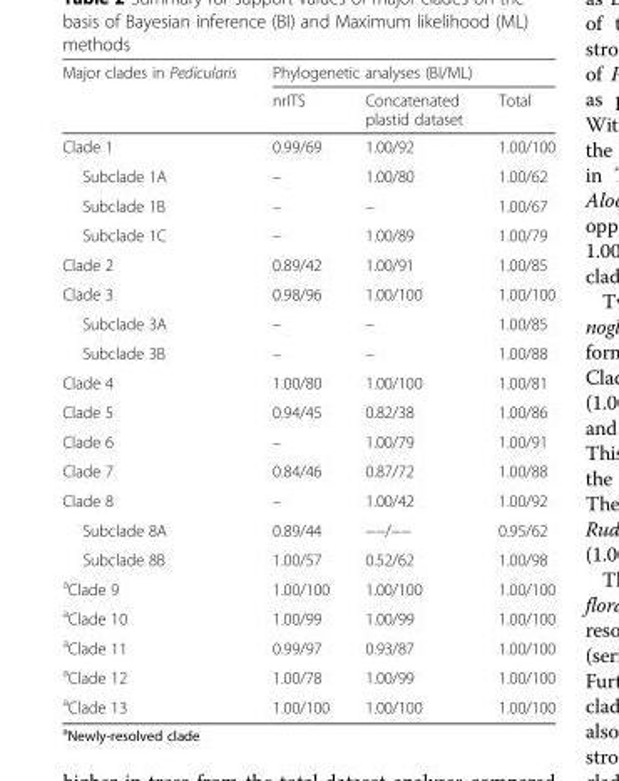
<table><thead><tr><td rowspan="2">Major clades in Pedicularis</td><td colspan="3">Phylogenetic analyses (BI/ML)</td></tr><tr><td>nrITS</td><td>Concatenated plastid dataset</td><td>Total</td></tr></thead><tbody><tr><td>Clade 1</td><td>0.99/69</td><td>1.00/92</td><td>1.00/100</td></tr><tr><td>Subclade 1A</td><td>–</td><td>1.00/80</td><td>1.00/62</td></tr><tr><td>Subclade 1B</td><td>–</td><td>–</td><td>1.00/67</td></tr><tr><td>Subclade 1C</td><td>–</td><td>1.00/89</td><td>1.00/79</td></tr><tr><td>Clade 2</td><td>0.89/42</td><td>1.00/91</td><td>1.00/85</td></tr><tr><td>Clade 3</td><td>0.98/96</td><td>1.00/100</td><td>1.00/100</td></tr><tr><td>Subclade 3A</td><td>–</td><td>–</td><td>1.00/85</td></tr><tr><td>Subclade 3B</td><td>–</td><td>–</td><td>1.00/88</td></tr><tr><td>Clade 4</td><td>1.00/80</td><td>1.00/100</td><td>1.00/81</td></tr><tr><td>Clade 5</td><td>0.94/45</td><td>0.82/38</td><td>1.00/86</td></tr><tr><td>Clade 6</td><td>–</td><td>1.00/79</td><td>1.00/91</td></tr><tr><td>Clade 7</td><td>0.84/46</td><td>0.87/72</td><td>1.00/88</td></tr><tr><td>Clade 8</td><td>–</td><td>1.00/42</td><td>1.00/92</td></tr><tr><td>Subclade 8A</td><td>0.89/44</td><td>−−/−−</td><td>0.95/62</td></tr><tr><td>Subclade 8B</td><td>1.00/57</td><td>0.52/62</td><td>1.00/98</td></tr><tr><td><sup>a</sup>Clade 9</td><td>1.00/100</td><td>1.00/100</td><td>1.00/100</td></tr><tr><td><sup>a</sup>Clade 10</td><td>1.00/99</td><td>1.00/99</td><td>1.00/100</td></tr><tr><td><sup>a</sup>Clade 11</td><td>0.99/97</td><td>0.93/87</td><td>1.00/100</td></tr><tr><td><sup>a</sup>Clade 12</td><td>1.00/78</td><td>1.00/99</td><td>1.00/100</td></tr><tr><td><sup>a</sup>Clade 13</td><td>1.00/100</td><td>1.00/100</td><td>1.00/100</td></tr></tbody></table>